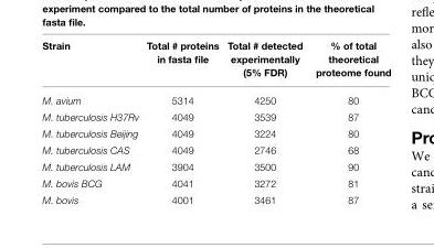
<table><thead><tr><td>Strain</td><td>Total # proteins in fasta file</td><td>Total # detected experimentally (5% FDR)</td><td>% of total theoretical proteome found</td></tr></thead><tbody><tr><td>M. avium</td><td>5314</td><td>4250</td><td>80</td></tr><tr><td>M. tuberculosis H37Rv</td><td>4049</td><td>3539</td><td>87</td></tr><tr><td>M. tuberculosis Beijing</td><td>4049</td><td>3224</td><td>80</td></tr><tr><td>M. tuberculosis CAS</td><td>4049</td><td>2746</td><td>68</td></tr><tr><td>M. tuberculosis LAM</td><td>3904</td><td>3500</td><td>90</td></tr><tr><td>M. bovis BCG</td><td>4041</td><td>3272</td><td>81</td></tr><tr><td>M. bovis</td><td>4001</td><td>3461</td><td>87</td></tr></tbody></table>